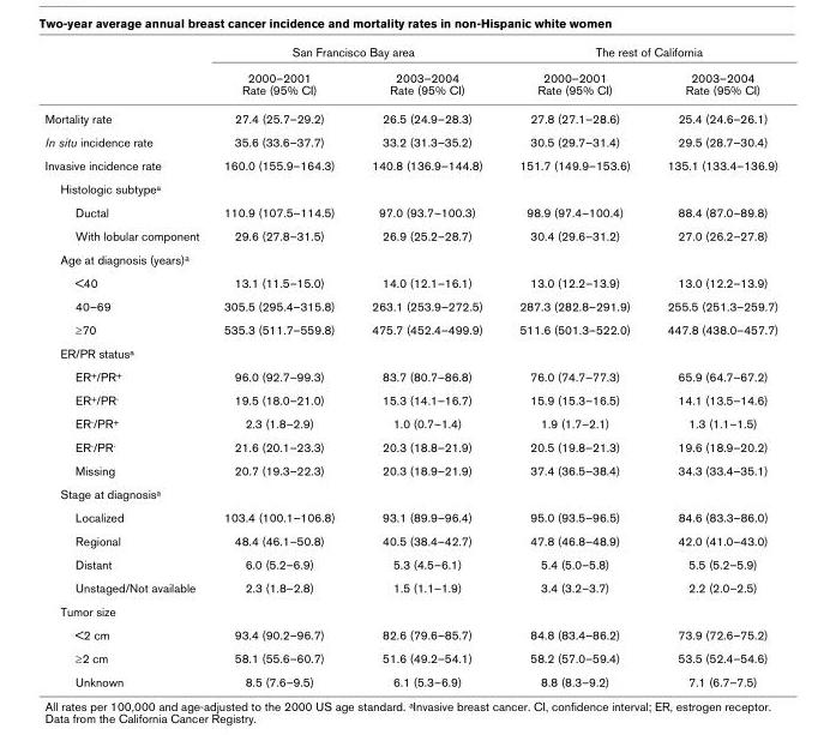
<table><thead><tr><td rowspan="2"></td><td colspan="2">San Francisco Bay area</td><td colspan="2">The rest of California</td></tr><tr><td>2000–2001 Rate (95% CI)</td><td>2003–2004 Rate (95% CI)</td><td>2000–2001 Rate (95% CI)</td><td>2003–2004 Rate (95% CI)</td></tr></thead><tbody><tr><td>Mortality rate</td><td>27.4 (25.7–29.2)</td><td>26.5 (24.9–28.3)</td><td>27.8 (27.1–28.6)</td><td>25.4 (24.6–26.1)</td></tr><tr><td>In situ incidence rate</td><td>35.6 (33.6–37.7)</td><td>33.2 (31.3–35.2)</td><td>30.5 (29.7–31.4)</td><td>29.5 (28.7–30.4)</td></tr><tr><td>Invasive incidence rate</td><td>160.0 (155.9–164.3)</td><td>140.8 (136.9–144.8)</td><td>151.7 (149.9–153.6)</td><td>135.1 (133.4–136.9)</td></tr><tr><td colspan="5">Histologic subtype<sup>a</sup></td></tr><tr><td>Ductal</td><td>110.9 (107.5–114.5)</td><td>97.0 (93.7–100.3)</td><td>98.9 (97.4–100.4)</td><td>88.4 (87.0–89.8)</td></tr><tr><td>With lobular component</td><td>29.6 (27.8–31.5)</td><td>26.9 (25.2–28.7)</td><td>30.4 (29.6–31.2)</td><td>27.0 (26.2–27.8)</td></tr><tr><td colspan="5">Age at diagnosis (years)<sup>a</sup></td></tr><tr><td>&lt;40</td><td>13.1 (11.5–15.0)</td><td>14.0 (12.1–16.1)</td><td>13.0 (12.2–13.9)</td><td>13.0 (12.2–13.9)</td></tr><tr><td>40–69</td><td>305.5 (295.4–315.8)</td><td>263.1 (253.9–272.5)</td><td>287.3 (282.8–291.9)</td><td>255.5 (251.3–259.7)</td></tr><tr><td>≥70</td><td>535.3 (511.7–559.8)</td><td>475.7 (452.4–499.9)</td><td>511.6 (501.3–522.0)</td><td>447.8 (438.0–457.7)</td></tr><tr><td colspan="5">ER/PR status<sup>a</sup></td></tr><tr><td>ER<sup>+</sup>/PR<sup>+</sup></td><td>96.0 (92.7–99.3)</td><td>83.7 (80.7–86.8)</td><td>76.0 (74.7–77.3)</td><td>65.9 (64.7–67.2)</td></tr><tr><td>ER<sup>+</sup>/PR<sup>-</sup></td><td>19.5 (18.0–21.0)</td><td>15.3 (14.1–16.7)</td><td>15.9 (15.3–16.5)</td><td>14.1 (13.5–14.6)</td></tr><tr><td>ER<sup>-</sup>/PR<sup>+</sup></td><td>2.3 (1.8–2.9)</td><td>1.0 (0.7–1.4)</td><td>1.9 (1.7–2.1)</td><td>1.3 (1.1–1.5)</td></tr><tr><td>ER<sup>-</sup>/PR<sup>-</sup></td><td>21.6 (20.1–23.3)</td><td>20.3 (18.8–21.9)</td><td>20.5 (19.8–21.3)</td><td>19.6 (18.9–20.2)</td></tr><tr><td>Missing</td><td>20.7 (19.3–22.3)</td><td>20.3 (18.9–21.9)</td><td>37.4 (36.5–38.4)</td><td>34.3 (33.4–35.1)</td></tr><tr><td colspan="5">Stage at diagnosis<sup>a</sup></td></tr><tr><td>Localized</td><td>103.4 (100.1–106.8)</td><td>93.1 (89.9–96.4)</td><td>95.0 (93.5–96.5)</td><td>84.6 (83.3–86.0)</td></tr><tr><td>Regional</td><td>48.4 (46.1–50.8)</td><td>40.5 (38.4–42.7)</td><td>47.8 (46.8–48.9)</td><td>42.0 (41.0–43.0)</td></tr><tr><td>Distant</td><td>6.0 (5.2–6.9)</td><td>5.3 (4.5–6.1)</td><td>5.4 (5.0–5.8)</td><td>5.5 (5.2–5.9)</td></tr><tr><td>Unstaged/Not available</td><td>2.3 (1.8–2.8)</td><td>1.5 (1.1–1.9)</td><td>3.4 (3.2–3.7)</td><td>2.2 (2.0–2.5)</td></tr><tr><td colspan="5">Tumor size</td></tr><tr><td>&lt;2 cm</td><td>93.4 (90.2–96.7)</td><td>82.6 (79.6–85.7)</td><td>84.8 (83.4–86.2)</td><td>73.9 (72.6–75.2)</td></tr><tr><td>≥2 cm</td><td>58.1 (55.6–60.7)</td><td>51.6 (49.2–54.1)</td><td>58.2 (57.0–59.4)</td><td>53.5 (52.4–54.6)</td></tr><tr><td>Unknown</td><td>8.5 (7.6–9.5)</td><td>6.1 (5.3–6.9)</td><td>8.8 (8.3–9.2)</td><td>7.1 (6.7–7.5)</td></tr></tbody></table>